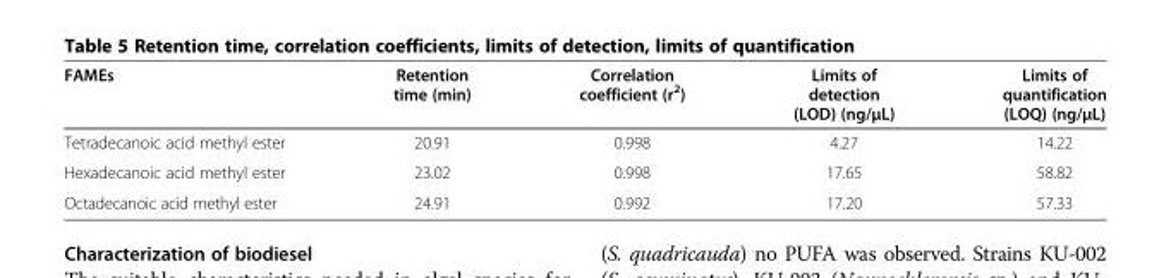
<table><thead><tr><td>FAMEs</td><td>Retention time (min)</td><td>Correlation coefficient (r<sup>2</sup>)</td><td>Limits of detection (LOD) (ng/μL)</td><td>Limits of quantification (LOQ) (ng/μL)</td></tr></thead><tbody><tr><td>Tetradecanoic acid methyl ester</td><td>20.91</td><td>0.998</td><td>4.27</td><td>14.22</td></tr><tr><td>Hexadecanoic acid methyl ester</td><td>23.02</td><td>0.998</td><td>17.65</td><td>58.82</td></tr><tr><td>Octadecanoic acid methyl ester</td><td>24.91</td><td>0.992</td><td>17.20</td><td>57.33</td></tr></tbody></table>